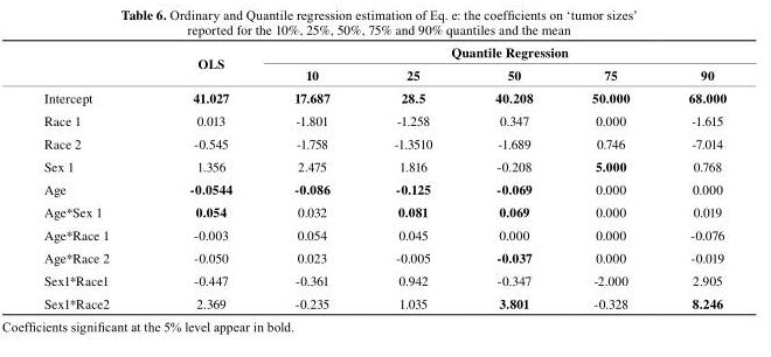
<table><thead><tr><td rowspan="2"></td><td rowspan="2">OLS</td><td colspan="5">Quantile regression</td></tr><tr><td>10</td><td>25</td><td>50</td><td>75</td><td>90</td></tr></thead><tbody><tr><td>Intercept</td><td>41.027</td><td>17.687</td><td>28.5</td><td>40.208</td><td>50.000</td><td>68.000</td></tr><tr><td>Race 1</td><td>0.013</td><td>-1.801</td><td>-1.258</td><td>0.347</td><td>0.000</td><td>-1.615</td></tr><tr><td>Race 2</td><td>-0.545</td><td>-1.758</td><td>-1.3510</td><td>-1.689</td><td>0.746</td><td>-7.014</td></tr><tr><td>Sex 1</td><td>1.356</td><td>2.475</td><td>1.816</td><td>-0.208</td><td>5.000</td><td>0.768</td></tr><tr><td>Age</td><td>-0.0544</td><td>-0.086</td><td>-0.125</td><td>-0.069</td><td>0.000</td><td>0.000</td></tr><tr><td>Age*Sex 1</td><td>0.054</td><td>0.032</td><td>0.081</td><td>0.069</td><td>0.000</td><td>0.019</td></tr><tr><td>Age*Race 1</td><td>-0.003</td><td>0.054</td><td>0.045</td><td>0.000</td><td>0.000</td><td>-0.076</td></tr><tr><td>Age*Race 2</td><td>-0.050</td><td>0.023</td><td>-0.005</td><td>-0.037</td><td>0.000</td><td>-0.019</td></tr><tr><td>Sex1*Race1</td><td>-0.447</td><td>-0.361</td><td>0.942</td><td>-0.347</td><td>-2.000</td><td>2.905</td></tr><tr><td>Sex1*Race2</td><td>2.369</td><td>-0.235</td><td>1.035</td><td>3.801</td><td>-0.328</td><td>8.246</td></tr></tbody></table>